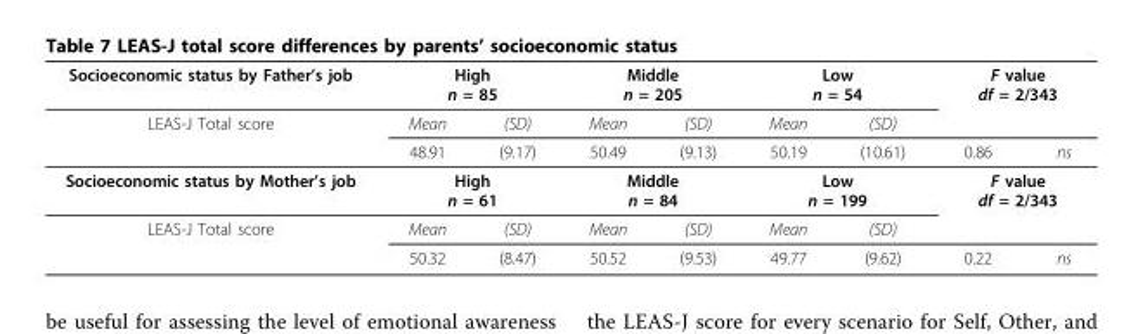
<table><thead><tr><td rowspan="3">Socioeconomic status by Father’s job LEAS-J Total score</td><td colspan="2">High n = 85</td><td colspan="2">Middle n = 205</td><td colspan="2">Low n = 54</td><td colspan="2">F value df = 2/343</td></tr><tr><td rowspan="2">Mean 48.91</td><td rowspan="2">(SD) (9.17)</td><td rowspan="2">Mean 50.49</td><td rowspan="2">(SD) (9.13)</td><td rowspan="2">Mean 50.19</td><td rowspan="2">(SD) (10.61)</td><td rowspan="2">0.86</td><td rowspan="2">ns</td></tr><tr></tr></thead><tbody><tr><td>Socioeconomic status by Mother’s job</td><td colspan="2">High n = 61</td><td colspan="2">Middle n = 84</td><td colspan="2">Low n = 199</td><td colspan="2">F value df = 2/343</td></tr><tr><td rowspan="2">LEAS-J Total score</td><td>Mean</td><td>(SD)</td><td>Mean</td><td>(SD)</td><td>Mean</td><td>(SD)</td><td></td><td></td></tr><tr><td>50.32</td><td>(8.47)</td><td>50.52</td><td>(9.53)</td><td>49.77</td><td>(9.62)</td><td>0.22</td><td>ns</td></tr></tbody></table>